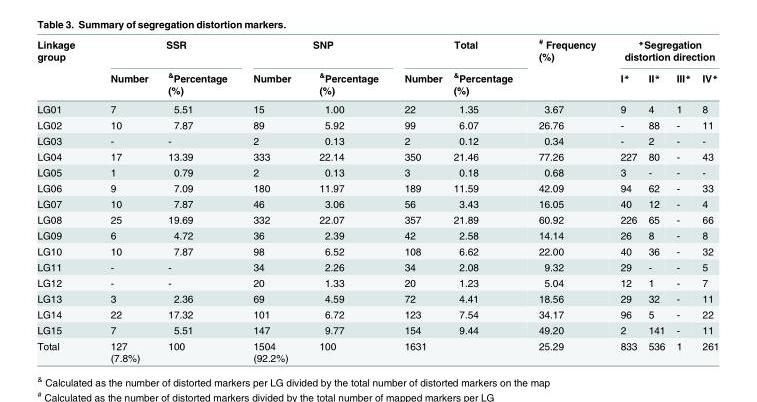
<table><thead><tr><td rowspan="2">Linkage group</td><td colspan="2">SSR</td><td colspan="2">SNP</td><td colspan="2">Total</td><td rowspan="2"><sup>#</sup> Frequency (%)</td><td colspan="4">*Segregation distortion direction</td></tr><tr><td>Number</td><td><sup>&amp;</sup>Percentage (%)</td><td>Number</td><td><sup>&amp;</sup>Percentage (%)</td><td>Number</td><td><sup>&amp;</sup>Percentage (%)</td><td>I*</td><td>II*</td><td>III*</td><td>IV*</td></tr></thead><tbody><tr><td>LG01</td><td>7</td><td>5.51</td><td>15</td><td>1.00</td><td>22</td><td>1.35</td><td>3.67</td><td>9</td><td>4</td><td>1</td><td>8</td></tr><tr><td>LG02</td><td>10</td><td>7.87</td><td>89</td><td>5.92</td><td>99</td><td>6.07</td><td>26.76</td><td>-</td><td>88</td><td>-</td><td>11</td></tr><tr><td>LG03</td><td>-</td><td>-</td><td>2</td><td>0.13</td><td>2</td><td>0.12</td><td>0.34</td><td>-</td><td>2</td><td>-</td><td>-</td></tr><tr><td>LG04</td><td>17</td><td>13.39</td><td>333</td><td>22.14</td><td>350</td><td>21.46</td><td>77.26</td><td>227</td><td>80</td><td>-</td><td>43</td></tr><tr><td>LG05</td><td>1</td><td>0.79</td><td>2</td><td>0.13</td><td>3</td><td>0.18</td><td>0.68</td><td>3</td><td>-</td><td>-</td><td>-</td></tr><tr><td>LG06</td><td>9</td><td>7.09</td><td>180</td><td>11.97</td><td>189</td><td>11.59</td><td>42.09</td><td>94</td><td>62</td><td>-</td><td>33</td></tr><tr><td>LG07</td><td>10</td><td>7.87</td><td>46</td><td>3.06</td><td>56</td><td>3.43</td><td>16.05</td><td>40</td><td>12</td><td>-</td><td>4</td></tr><tr><td>LG08</td><td>25</td><td>19.69</td><td>332</td><td>22.07</td><td>357</td><td>21.89</td><td>60.92</td><td>226</td><td>65</td><td>-</td><td>66</td></tr><tr><td>LG09</td><td>6</td><td>4.72</td><td>36</td><td>2.39</td><td>42</td><td>2.58</td><td>14.14</td><td>26</td><td>8</td><td>-</td><td>8</td></tr><tr><td>LG10</td><td>10</td><td>7.87</td><td>98</td><td>6.52</td><td>108</td><td>6.62</td><td>22.00</td><td>40</td><td>36</td><td>-</td><td>32</td></tr><tr><td>LG11</td><td>-</td><td>-</td><td>34</td><td>2.26</td><td>34</td><td>2.08</td><td>9.32</td><td>29</td><td>-</td><td>-</td><td>5</td></tr><tr><td>LG12</td><td>-</td><td>-</td><td>20</td><td>1.33</td><td>20</td><td>1.23</td><td>5.04</td><td>12</td><td>1</td><td>-</td><td>7</td></tr><tr><td>LG13</td><td>3</td><td>2.36</td><td>69</td><td>4.59</td><td>72</td><td>4.41</td><td>18.56</td><td>29</td><td>32</td><td>-</td><td>11</td></tr><tr><td>LG14</td><td>22</td><td>17.32</td><td>101</td><td>6.72</td><td>123</td><td>7.54</td><td>34.17</td><td>96</td><td>5</td><td>-</td><td>22</td></tr><tr><td>LG15</td><td>7</td><td>5.51</td><td>147</td><td>9.77</td><td>154</td><td>9.44</td><td>49.20</td><td>2</td><td>141</td><td>-</td><td>11</td></tr><tr><td>Total</td><td>127 (7.8%)</td><td>100</td><td>1504 (92.2%)</td><td>100</td><td>1631</td><td></td><td>25.29</td><td>833</td><td>536</td><td>1</td><td>261</td></tr></tbody></table>